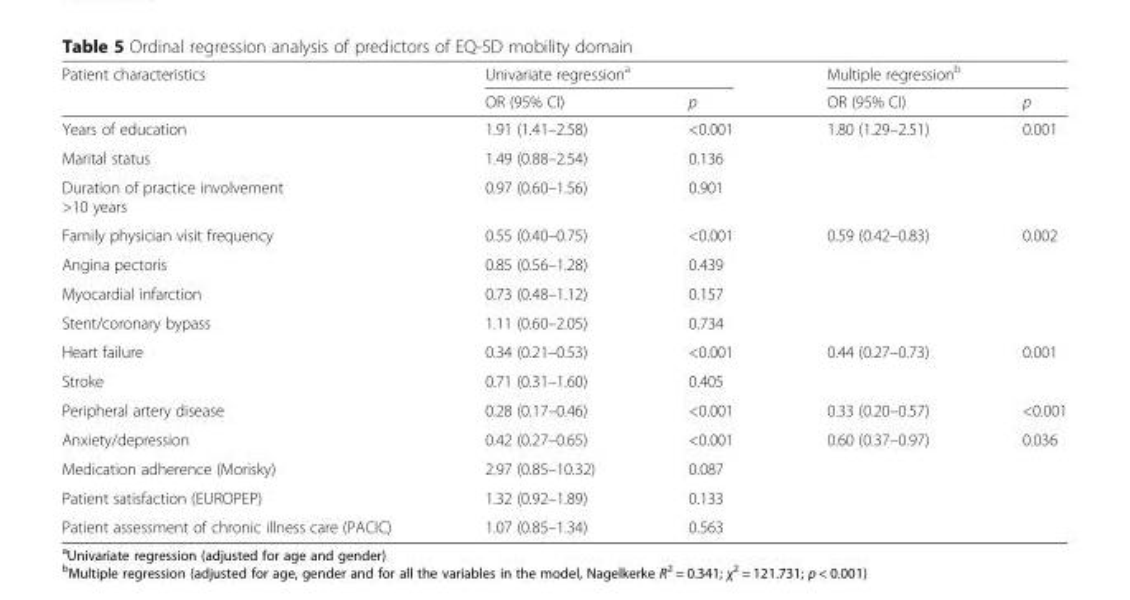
<table><thead><tr><td rowspan="2">Patient characteristics</td><td colspan="2">Univariate regression<sup>a</sup></td><td colspan="2">Multiple regression<sup>b</sup></td></tr><tr><td>OR (95% CI)</td><td>p</td><td>OR (95% CI)</td><td>p</td></tr></thead><tbody><tr><td>Years of education</td><td>1.91 (1.41–2.58)</td><td>&lt;0.001</td><td>1.80 (1.29–2.51)</td><td>0.001</td></tr><tr><td>Marital status</td><td>1.49 (0.88–2.54)</td><td>0.136</td><td></td><td></td></tr><tr><td>Duration of practice involvement &gt;10 years</td><td>0.97 (0.60–1.56)</td><td>0.901</td><td></td><td></td></tr><tr><td>Family physician visit frequency</td><td>0.55 (0.40–0.75)</td><td>&lt;0.001</td><td>0.59 (0.42–0.83)</td><td>0.002</td></tr><tr><td>Angina pectoris</td><td>0.85 (0.56–1.28)</td><td>0.439</td><td></td><td></td></tr><tr><td>Myocardial infarction</td><td>0.73 (0.48–1.12)</td><td>0.157</td><td></td><td></td></tr><tr><td>Stent/coronary bypass</td><td>1.11 (0.60–2.05)</td><td>0.734</td><td></td><td></td></tr><tr><td>Heart failure</td><td>0.34 (0.21–0.53)</td><td>&lt;0.001</td><td>0.44 (0.27–0.73)</td><td>0.001</td></tr><tr><td>Stroke</td><td>0.71 (0.31–1.60)</td><td>0.405</td><td></td><td></td></tr><tr><td>Peripheral artery disease</td><td>0.28 (0.17–0.46)</td><td>&lt;0.001</td><td>0.33 (0.20–0.57)</td><td>&lt;0.001</td></tr><tr><td>Anxiety/depression</td><td>0.42 (0.27–0.65)</td><td>&lt;0.001</td><td>0.60 (0.37–0.97)</td><td>0.036</td></tr><tr><td>Medication adherence (Morisky)</td><td>2.97 (0.85–10.32)</td><td>0.087</td><td></td><td></td></tr><tr><td>Patient satisfaction (EUROPEP)</td><td>1.32 (0.92–1.89)</td><td>0.133</td><td></td><td></td></tr><tr><td>Patient assessment of chronic illness care (PACIC)</td><td>1.07 (0.85–1.34)</td><td>0.563</td><td></td><td></td></tr></tbody></table>